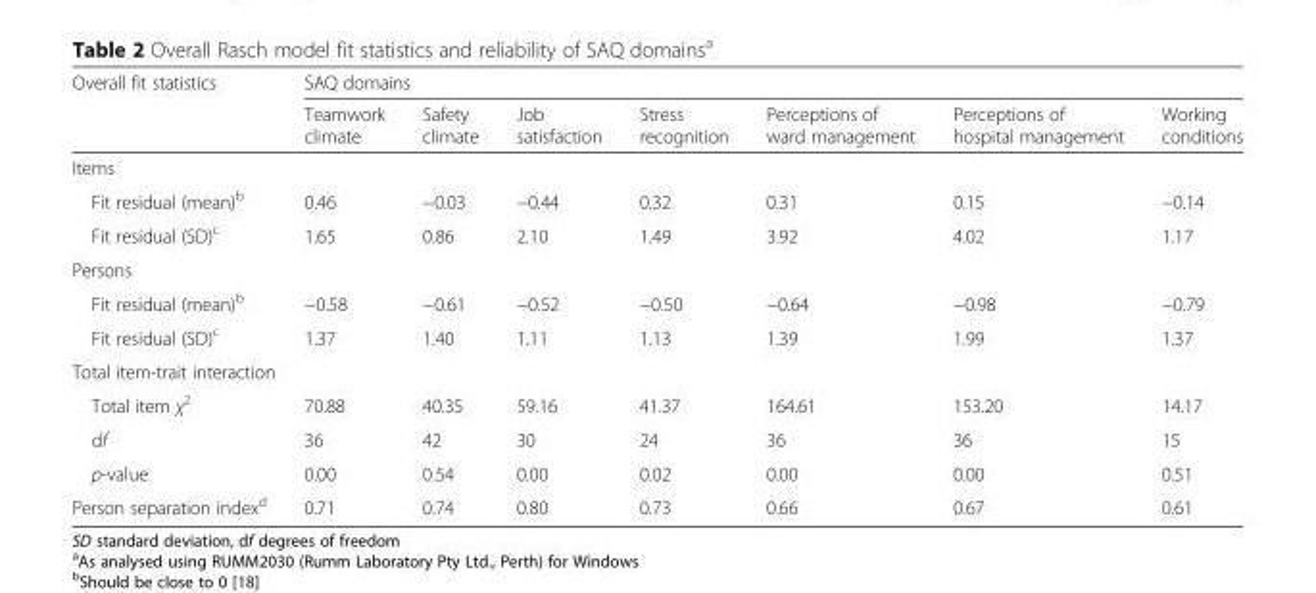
<table><thead><tr><td rowspan="2">Overall fit statistics</td><td colspan="7">SAQ domains</td></tr><tr><td>Teamwork climate</td><td>Safety climate</td><td>Job satisfaction</td><td>Stress recognition</td><td>Perceptions of ward management</td><td>Perceptions of hospital management</td><td>Working conditions</td></tr></thead><tbody><tr><td colspan="8">Items</td></tr><tr><td>Fit residual (mean)<sup>b</sup></td><td>0.46</td><td>−0.03</td><td>−0.44</td><td>0.32</td><td>0.31</td><td>0.15</td><td>−0.14</td></tr><tr><td>Fit residual (SD)<sup>c</sup></td><td>1.65</td><td>0.86</td><td>2.10</td><td>1.49</td><td>3.92</td><td>4.02</td><td>1.17</td></tr><tr><td colspan="8">Persons</td></tr><tr><td>Fit residual (mean)<sup>b</sup></td><td>−0.58</td><td>−0.61</td><td>−0.52</td><td>−0.50</td><td>−0.64</td><td>−0.98</td><td>−0.79</td></tr><tr><td>Fit residual (SD)<sup>c</sup></td><td>1.37</td><td>1.40</td><td>1.11</td><td>1.13</td><td>1.39</td><td>1.99</td><td>1.37</td></tr><tr><td colspan="8">Total item-trait interaction</td></tr><tr><td>Total item χ<sup>2</sup></td><td>70.88</td><td>40.35</td><td>59.16</td><td>41.37</td><td>164.61</td><td>153.20</td><td>14.17</td></tr><tr><td>df</td><td>36</td><td>42</td><td>30</td><td>24</td><td>36</td><td>36</td><td>15</td></tr><tr><td>p-value</td><td>0.00</td><td>0.54</td><td>0.00</td><td>0.02</td><td>0.00</td><td>0.00</td><td>0.51</td></tr><tr><td>Person separation index<sup>d</sup></td><td>0.71</td><td>0.74</td><td>0.80</td><td>0.73</td><td>0.66</td><td>0.67</td><td>0.61</td></tr></tbody></table>